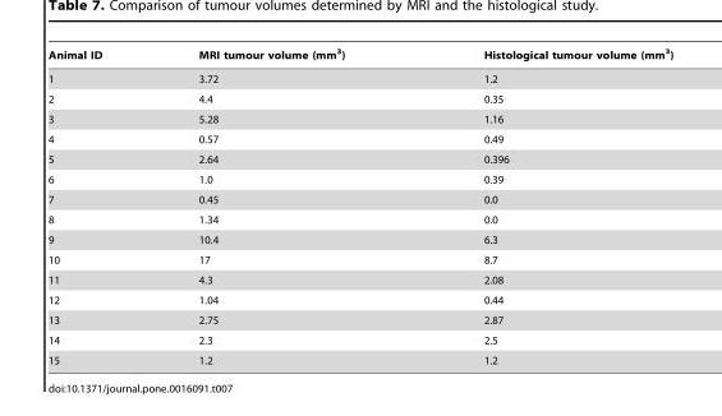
<table><thead><tr><td>Animal ID</td><td>MRI tumour volume (mm<sup>3</sup>)</td><td>Histological tumour volume (mm<sup>3</sup>)</td></tr></thead><tbody><tr><td>1</td><td>3.72</td><td>1.2</td></tr><tr><td>2</td><td>4.4</td><td>0.35</td></tr><tr><td>3</td><td>5.28</td><td>1.16</td></tr><tr><td>4</td><td>0.57</td><td>0.49</td></tr><tr><td>5</td><td>2.64</td><td>0.396</td></tr><tr><td>6</td><td>1.0</td><td>0.39</td></tr><tr><td>7</td><td>0.45</td><td>0.0</td></tr><tr><td>8</td><td>1.34</td><td>0.0</td></tr><tr><td>9</td><td>10.4</td><td>6.3</td></tr><tr><td>10</td><td>17</td><td>8.7</td></tr><tr><td>11</td><td>4.3</td><td>2.08</td></tr><tr><td>12</td><td>1.04</td><td>0.44</td></tr><tr><td>13</td><td>2.75</td><td>2.87</td></tr><tr><td>14</td><td>2.3</td><td>2.5</td></tr><tr><td>15</td><td>1.2</td><td>1.2</td></tr></tbody></table>